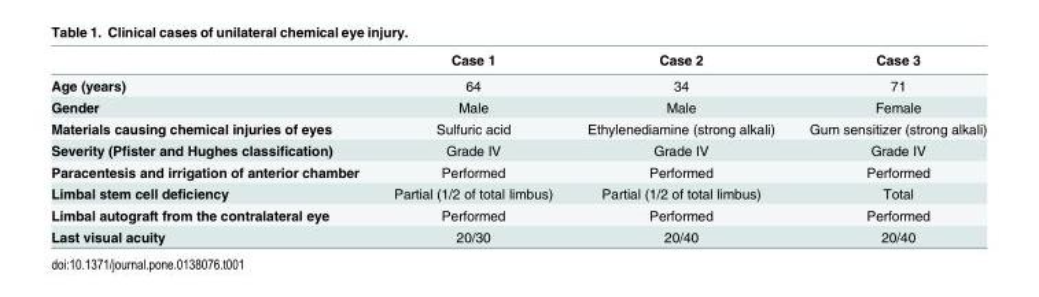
<table><thead><tr><td></td><td>Case 1</td><td>Case 2</td><td>Case 3</td></tr></thead><tbody><tr><td>Age (years)</td><td>64</td><td>34</td><td>71</td></tr><tr><td>Gender</td><td>Male</td><td>Male</td><td>Female</td></tr><tr><td>Materials causing chemical injuries of eyes</td><td>Sulfuric acid</td><td>Ethylenediamine (strong alkali)</td><td>Gum sensitizer (strong alkali)</td></tr><tr><td>Severity (Pfister and Hughes classification)</td><td>Grade IV</td><td>Grade IV</td><td>Grade IV</td></tr><tr><td>Paracentesis and irrigation of anterior chamber</td><td>Performed</td><td>Performed</td><td>Performed</td></tr><tr><td>Limbal stem cell deficiency</td><td>Partial (1/2 of total limbus)</td><td>Partial (1/2 of total limbus)</td><td>Total</td></tr><tr><td>Limbal autograft from the contralateral eye</td><td>Performed</td><td>Performed</td><td>Performed</td></tr><tr><td>Last visual acuity</td><td>20/30</td><td>20/40</td><td>20/40</td></tr></tbody></table>